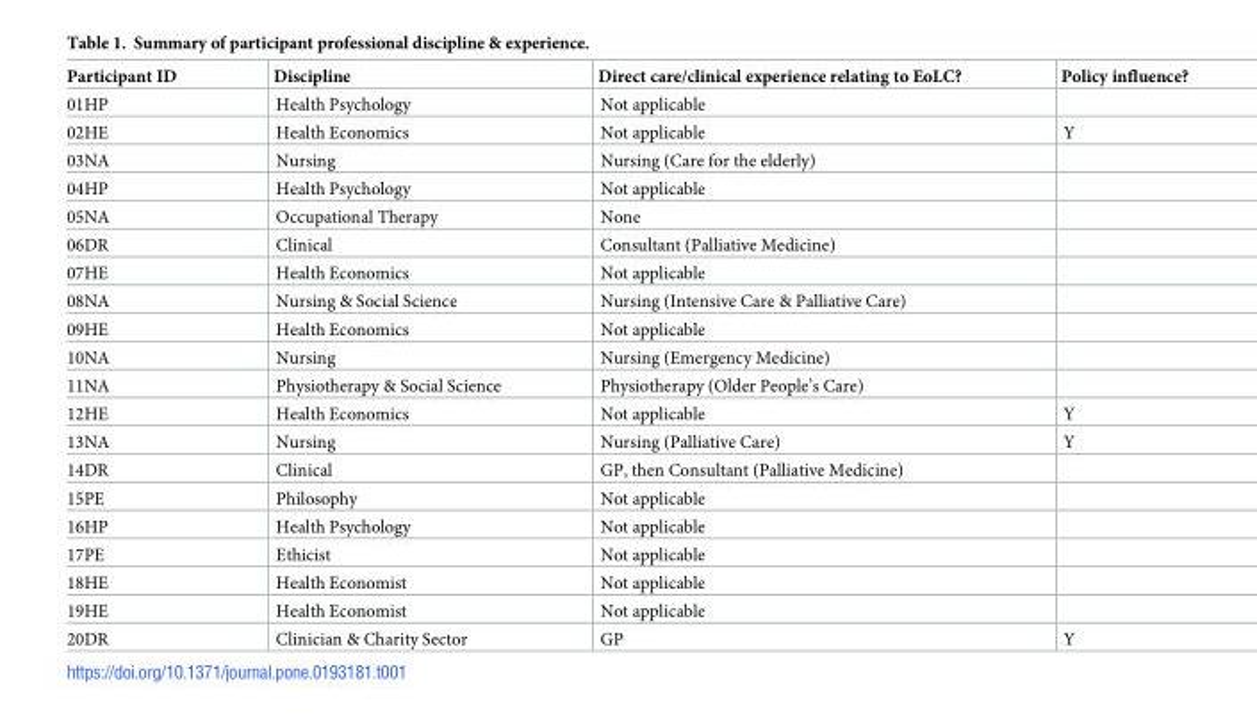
<table><thead><tr><td>Participant ID</td><td>Discipline</td><td>Direct care/clinical experience relating to EoLC?</td><td>Policy influence?</td></tr></thead><tbody><tr><td>01HP</td><td>Health Psychology</td><td>Not applicable</td><td></td></tr><tr><td>02HE</td><td>Health Economics</td><td>Not applicable</td><td>Y</td></tr><tr><td>03NA</td><td>Nursing</td><td>Nursing (Care for the elderly)</td><td></td></tr><tr><td>04HP</td><td>Health Psychology</td><td>Not applicable</td><td></td></tr><tr><td>05NA</td><td>Occupational Therapy</td><td>None</td><td></td></tr><tr><td>06DR</td><td>Clinical</td><td>Consultant (Palliative Medicine)</td><td></td></tr><tr><td>07HE</td><td>Health Economics</td><td>Not applicable</td><td></td></tr><tr><td>08NA</td><td>Nursing &amp; Social Science</td><td>Nursing (Intensive Care &amp; Palliative Care)</td><td></td></tr><tr><td>09HE</td><td>Health Economics</td><td>Not applicable</td><td></td></tr><tr><td>10NA</td><td>Nursing</td><td>Nursing (Emergency Medicine)</td><td></td></tr><tr><td>11NA</td><td>Physiotherapy &amp; Social Science</td><td>Physiotherapy (Older People’s Care)</td><td></td></tr><tr><td>12HE</td><td>Health Economics</td><td>Not applicable</td><td>Y</td></tr><tr><td>13NA</td><td>Nursing</td><td>Nursing (Palliative Care)</td><td>Y</td></tr><tr><td>14DR</td><td>Clinical</td><td>GP, then Consultant (Palliative Medicine)</td><td></td></tr><tr><td>15PE</td><td>Philosophy</td><td>Not applicable</td><td></td></tr><tr><td>16HP</td><td>Health Psychology</td><td>Not applicable</td><td></td></tr><tr><td>17PE</td><td>Ethicist</td><td>Not applicable</td><td></td></tr><tr><td>18HE</td><td>Health Economist</td><td>Not applicable</td><td></td></tr><tr><td>19HE</td><td>Health Economist</td><td>Not applicable</td><td></td></tr><tr><td>20DR</td><td>Clinician &amp; Charity Sector</td><td>GP</td><td>Y</td></tr></tbody></table>